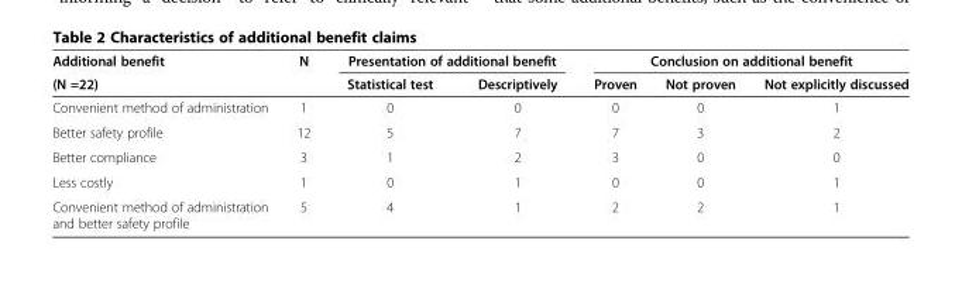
<table><thead><tr><td rowspan="2">Additional benefit (N =22)</td><td rowspan="2">N</td><td colspan="2">Presentation of additional benefit</td><td colspan="3">Conclusion on additional benefit</td></tr><tr><td>Statistical test</td><td>Descriptively</td><td>Proven</td><td>Not proven</td><td>Not explicitly discussed</td></tr></thead><tbody><tr><td>Convenient method of administration</td><td>1</td><td>0</td><td>0</td><td>0</td><td>0</td><td>1</td></tr><tr><td>Better safety profile</td><td>12</td><td>5</td><td>7</td><td>7</td><td>3</td><td>2</td></tr><tr><td>Better compliance</td><td>3</td><td>1</td><td>2</td><td>3</td><td>0</td><td>0</td></tr><tr><td>Less costly</td><td>1</td><td>0</td><td>1</td><td>0</td><td>0</td><td>1</td></tr><tr><td>Convenient method of administration and better safety profile</td><td>5</td><td>4</td><td>1</td><td>2</td><td>2</td><td>1</td></tr></tbody></table>